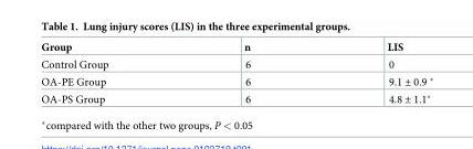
<table><thead><tr><td>Group</td><td>n</td><td>LIS</td></tr></thead><tbody><tr><td>Control Group</td><td>6</td><td>0</td></tr><tr><td>OA-PE Group</td><td>6</td><td>9.1 ± 0.9</td></tr><tr><td>OA-PS Group</td><td>6</td><td>4.8 ± 1.1*</td></tr></tbody></table>